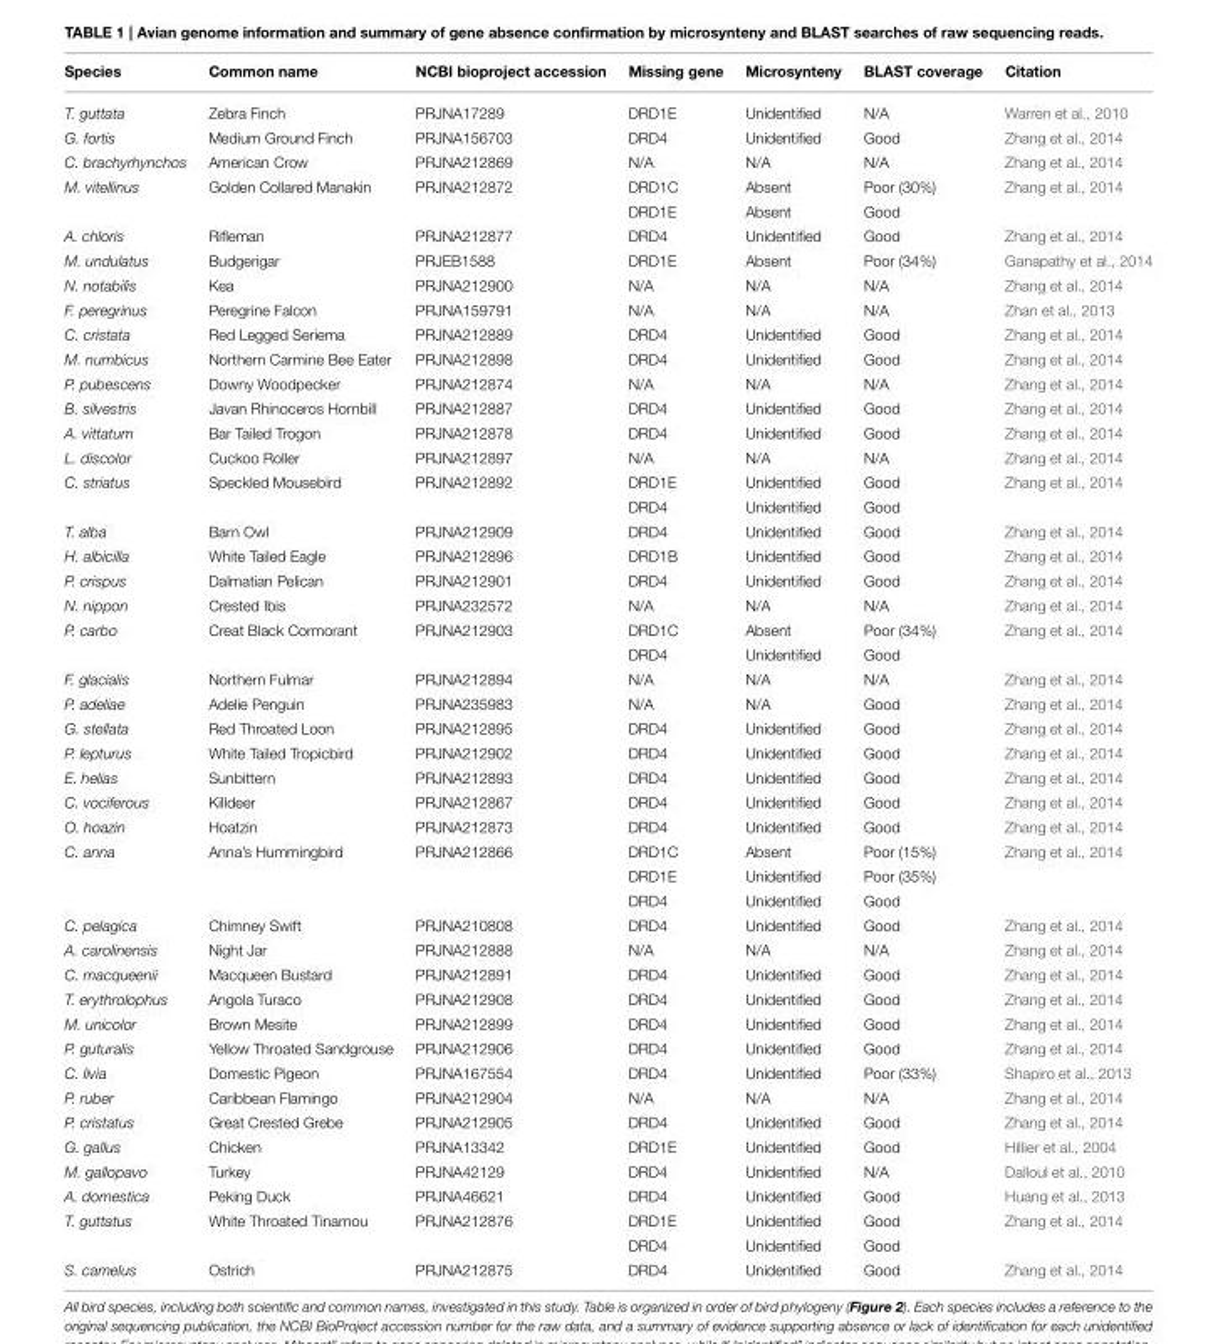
<table><thead><tr><td>Species</td><td>Common name</td><td>NCBI bioproject accession</td><td>Missing gene</td><td>Microsynteny</td><td>BLAST coverage</td><td>Citation</td></tr></thead><tbody><tr><td>T. guttata</td><td>Zebra Finch</td><td>PRJNA17289</td><td>DRD1E</td><td>Unidentified</td><td>N/A</td><td>Warren et al., 2010</td></tr><tr><td>G. fortis</td><td>Medium Ground Finch</td><td>PRJNA156703</td><td>DRD4</td><td>Unidentified</td><td>Good</td><td>Zhang et al., 2014</td></tr><tr><td>C. brachyrhynchos</td><td>American Crow</td><td>PRJNA212869</td><td>N/A</td><td>N/A</td><td>N/A</td><td>Zhang et al., 2014</td></tr><tr><td rowspan="2">M. vitellinus</td><td>Golden Collared Manakin</td><td>PRJNA212872</td><td>DRD1C</td><td>Absent</td><td>Poor (30%)</td><td>Zhang et al., 2014</td></tr><tr><td></td><td></td><td>DRD1E</td><td>Absent</td><td>Good</td><td></td></tr><tr><td>A. chloris</td><td>Rifleman</td><td>PRJNA212877</td><td>DRD4</td><td>Unidentified</td><td>Good</td><td>Zhang et al., 2014</td></tr><tr><td>M. undulatus</td><td>Budgerigar</td><td>PRJEB1588</td><td>DRD1E</td><td>Absent</td><td>Poor (34%)</td><td>Ganapathy et al., 2014</td></tr><tr><td>N. notabilis</td><td>Kea</td><td>PRJNA212900</td><td>N/A</td><td>N/A</td><td>N/A</td><td>Zhang et al., 2014</td></tr><tr><td>F. peregrinus</td><td>Peregrine Falcon</td><td>PRJNA159791</td><td>N/A</td><td>N/A</td><td>N/A</td><td>Zhan et al., 2013</td></tr><tr><td>C. cristata</td><td>Red Legged Seriema</td><td>PRJNA212889</td><td>DRD4</td><td>Unidentified</td><td>Good</td><td>Zhang et al., 2014</td></tr><tr><td>M. numbicus</td><td>Northern Carmine Bee Eater</td><td>PRJNA212898</td><td>DRD4</td><td>Unidentified</td><td>Good</td><td>Zhang et al., 2014</td></tr><tr><td>P. pubescens</td><td>Downy Woodpecker</td><td>PRJNA212874</td><td>N/A</td><td>N/A</td><td>N/A</td><td>Zhang et al., 2014</td></tr><tr><td>B. silvestris</td><td>Javan Rhinoceros Hornbill</td><td>PRJNA212887</td><td>DRD4</td><td>Unidentified</td><td>Good</td><td>Zhang et al., 2014</td></tr><tr><td>A. vittatum</td><td>Bar Tailed Trogon</td><td>PRJNA212878</td><td>DRD4</td><td>Unidentified</td><td>Good</td><td>Zhang et al., 2014</td></tr><tr><td>L. discolor</td><td>Cuckoo Roller</td><td>PRJNA212897</td><td>N/A</td><td>N/A</td><td>N/A</td><td>Zhang et al., 2014</td></tr><tr><td rowspan="2">C. striatus</td><td>Speckled Mousebird</td><td>PRJNA212892</td><td>DRD1E</td><td>Unidentified</td><td>Good</td><td>Zhang et al., 2014</td></tr><tr><td></td><td></td><td>DRD4</td><td>Unidentified</td><td>Good</td><td></td></tr><tr><td>T. alba</td><td>Barn Owl</td><td>PRJNA212909</td><td>DRD4</td><td>Unidentified</td><td>Good</td><td>Zhang et al., 2014</td></tr><tr><td>H. albicilla</td><td>White Tailed Eagle</td><td>PRJNA212896</td><td>DRD1B</td><td>Unidentified</td><td>Good</td><td>Zhang et al., 2014</td></tr><tr><td>P. crispus</td><td>Dalmatian Pelican</td><td>PRJNA212901</td><td>DRD4</td><td>Unidentified</td><td>Good</td><td>Zhang et al., 2014</td></tr><tr><td>N. nippon</td><td>Crested Ibis</td><td>PRJNA232572</td><td>N/A</td><td>N/A</td><td>N/A</td><td>Zhang et al., 2014</td></tr><tr><td rowspan="2">P. carbo</td><td>Creat Black Cormorant</td><td>PRJNA212903</td><td>DRD1C</td><td>Absent</td><td>Poor (34%)</td><td>Zhang et al., 2014</td></tr><tr><td></td><td></td><td>DRD4</td><td>Unidentified</td><td>Good</td><td></td></tr><tr><td>F. glacialis</td><td>Northern Fulmar</td><td>PRJNA212894</td><td>N/A</td><td>N/A</td><td>N/A</td><td>Zhang et al., 2014</td></tr><tr><td>P. adeliae</td><td>Adelie Penguin</td><td>PRJNA235983</td><td>N/A</td><td>N/A</td><td>Good</td><td>Zhang et al., 2014</td></tr><tr><td>G. stellata</td><td>Red Throated Loon</td><td>PRJNA212895</td><td>DRD4</td><td>Unidentified</td><td>Good</td><td>Zhang et al., 2014</td></tr><tr><td>P. lepturus</td><td>White Tailed Tropicbird</td><td>PRJNA212902</td><td>DRD4</td><td>Unidentified</td><td>Good</td><td>Zhang et al., 2014</td></tr><tr><td>E. helias</td><td>Sunbittern</td><td>PRJNA212893</td><td>DRD4</td><td>Unidentified</td><td>Good</td><td>Zhang et al., 2014</td></tr><tr><td>C. vociferous</td><td>Killdeer</td><td>PRJNA212867</td><td>DRD4</td><td>Unidentified</td><td>Good</td><td>Zhang et al., 2014</td></tr><tr><td>O. hoazin</td><td>Hoatzin</td><td>PRJNA212873</td><td>DRD4</td><td>Unidentified</td><td>Good</td><td>Zhang et al., 2014</td></tr><tr><td rowspan="3">C. anna</td><td>Anna’s Hummingbird</td><td>PRJNA212866</td><td>DRD1C</td><td>Absent</td><td>Poor (15%)</td><td>Zhang et al., 2014</td></tr><tr><td></td><td></td><td>DRD1E</td><td>Unidentified</td><td>Poor (35%)</td><td></td></tr><tr><td></td><td></td><td>DRD4</td><td>Unidentified</td><td>Good</td><td></td></tr><tr><td>C. pelagica</td><td>Chimney Swift</td><td>PRJNA210808</td><td>DRD4</td><td>Unidentified</td><td>Good</td><td>Zhang et al., 2014</td></tr><tr><td>A. carolinensis</td><td>Night Jar</td><td>PRJNA212888</td><td>N/A</td><td>N/A</td><td>N/A</td><td>Zhang et al., 2014</td></tr><tr><td>C. macqueenii</td><td>Macqueen Bustard</td><td>PRJNA212891</td><td>DRD4</td><td>Unidentified</td><td>Good</td><td>Zhang et al., 2014</td></tr><tr><td>T. erythrolophus</td><td>Angola Turaco</td><td>PRJNA212908</td><td>DRD4</td><td>Unidentified</td><td>Good</td><td>Zhang et al., 2014</td></tr><tr><td>M. unicolor</td><td>Brown Mesite</td><td>PRJNA212899</td><td>DRD4</td><td>Unidentified</td><td>Good</td><td>Zhang et al., 2014</td></tr><tr><td>P. guturalis</td><td>Yellow Throated Sandgrouse</td><td>PRJNA212906</td><td>DRD4</td><td>Unidentified</td><td>Good</td><td>Zhang et al., 2014</td></tr><tr><td>C. livia</td><td>Domestic Pigeon</td><td>PRJNA167554</td><td>DRD4</td><td>Unidentified</td><td>Poor (33%)</td><td>Shapiro et al., 2013</td></tr><tr><td>P. ruber</td><td>Caribbean Flamingo</td><td>PRJNA212904</td><td>N/A</td><td>N/A</td><td>N/A</td><td>Zhang et al., 2014</td></tr><tr><td>P. cristatus</td><td>Great Crested Grebe</td><td>PRJNA212905</td><td>DRD4</td><td>Unidentified</td><td>Good</td><td>Zhang et al., 2014</td></tr><tr><td>G. gallus</td><td>Chicken</td><td>PRJNA13342</td><td>DRD1E</td><td>Unidentified</td><td>Good</td><td>Hillier et al., 2004</td></tr><tr><td>M. gallopavo</td><td>Turkey</td><td>PRJNA42129</td><td>DRD4</td><td>Unidentified</td><td>N/A</td><td>Dalloul et al., 2010</td></tr><tr><td>A. domestica</td><td>Peking Duck</td><td>PRJNA46621</td><td>DRD4</td><td>Unidentified</td><td>Good</td><td>Huang et al., 2013</td></tr><tr><td rowspan="2">T. guttatus</td><td>White Throated Tinamou</td><td>PRJNA212876</td><td>DRD1E</td><td>Unidentified</td><td>Good</td><td>Zhang et al., 2014</td></tr><tr><td></td><td></td><td>DRD4</td><td>Unidentified</td><td>Good</td><td></td></tr><tr><td>S. camelus</td><td>Ostrich</td><td>PRJNA212875</td><td>DRD4</td><td>Unidentified</td><td>Good</td><td>Zhang et al., 2014</td></tr></tbody></table>